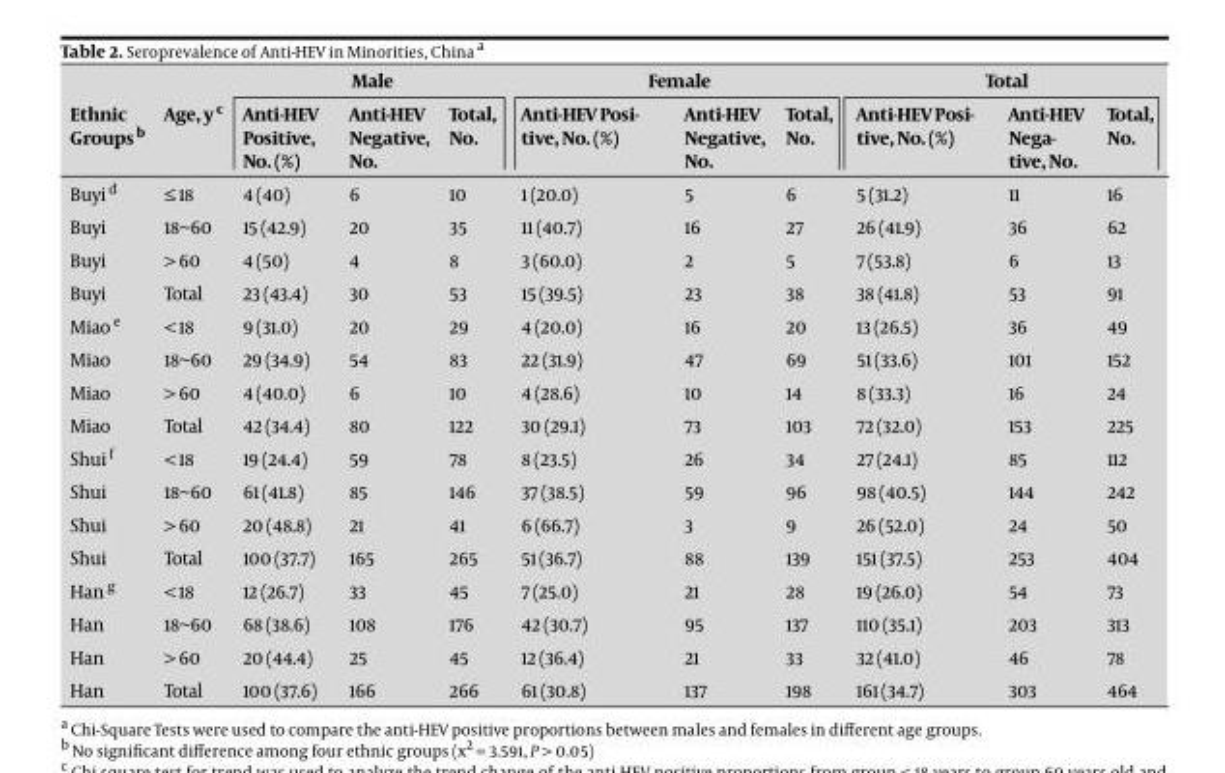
<table><thead><tr><td rowspan="2">Ethnic Groups <sup>b</sup></td><td rowspan="2">Age, y <sup>c</sup></td><td colspan="3">Male</td><td colspan="3">Female</td><td colspan="3">Total</td></tr><tr><td>Anti-HEV Positive, No. (%)</td><td>Anti-HEV Negative, No.</td><td>Total, No.</td><td>Anti-HEV Posi- tive, No. (%)</td><td>Anti-HEV Negative, No.</td><td>Total, No.</td><td>Anti-HEV Posi- tive, No. (%)</td><td>Anti-HEV Nega- tive, No.</td><td>Total, No.</td></tr></thead><tbody><tr><td>Buyi <sup>d</sup></td><td>≤ 18</td><td>4 (40)</td><td>6</td><td>10</td><td>1 (20.0)</td><td>5</td><td>6</td><td>5 (31.2)</td><td>11</td><td>16</td></tr><tr><td>Buyi</td><td>18~60</td><td>15 (42.9)</td><td>20</td><td>35</td><td>11 (40.7)</td><td>16</td><td>27</td><td>26 (41.9)</td><td>36</td><td>62</td></tr><tr><td>Buyi</td><td>&gt; 60</td><td>4 (50)</td><td>4</td><td>8</td><td>3 (60.0)</td><td>2</td><td>5</td><td>7 (53.8)</td><td>6</td><td>13</td></tr><tr><td>Buyi</td><td>Total</td><td>23 (43.4)</td><td>30</td><td>53</td><td>15 (39.5)</td><td>23</td><td>38</td><td>38 (41.8)</td><td>53</td><td>91</td></tr><tr><td>Miao <sup>e</sup></td><td>&lt; 18</td><td>9 (31.0)</td><td>20</td><td>29</td><td>4 (20.0)</td><td>16</td><td>20</td><td>13 (26.5)</td><td>36</td><td>49</td></tr><tr><td>Miao</td><td>18~60</td><td>29 (34.9)</td><td>54</td><td>83</td><td>22 (31.9)</td><td>47</td><td>69</td><td>51 (33.6)</td><td>101</td><td>152</td></tr><tr><td>Miao</td><td>&gt; 60</td><td>4 (40.0)</td><td>6</td><td>10</td><td>4 (28.6)</td><td>10</td><td>14</td><td>8 (33.3)</td><td>16</td><td>24</td></tr><tr><td>Miao</td><td>Total</td><td>42 (34.4)</td><td>80</td><td>122</td><td>30 (29.1)</td><td>73</td><td>103</td><td>72 (32.0)</td><td>153</td><td>225</td></tr><tr><td>Shui <sup>f</sup></td><td>&lt; 18</td><td>19 (24.4)</td><td>59</td><td>78</td><td>8 (23.5)</td><td>26</td><td>34</td><td>27 (24.1)</td><td>85</td><td>112</td></tr><tr><td>Shui</td><td>18~60</td><td>61 (41.8)</td><td>85</td><td>146</td><td>37 (38.5)</td><td>59</td><td>96</td><td>98 (40.5)</td><td>144</td><td>242</td></tr><tr><td>Shui</td><td>&gt; 60</td><td>20 (48.8)</td><td>21</td><td>41</td><td>6 (66.7)</td><td>3</td><td>9</td><td>26 (52.0)</td><td>24</td><td>50</td></tr><tr><td>Shui</td><td>Total</td><td>100 (37.7)</td><td>165</td><td>265</td><td>51 (36.7)</td><td>88</td><td>139</td><td>151 (37.5)</td><td>253</td><td>404</td></tr><tr><td>Han <sup>g</sup></td><td>&lt; 18</td><td>12 (26.7)</td><td>33</td><td>45</td><td>7 (25.0)</td><td>21</td><td>28</td><td>19 (26.0)</td><td>54</td><td>73</td></tr><tr><td>Han</td><td>18~60</td><td>68 (38.6)</td><td>108</td><td>176</td><td>42 (30.7)</td><td>95</td><td>137</td><td>110 (35.1)</td><td>203</td><td>313</td></tr><tr><td>Han</td><td>&gt; 60</td><td>20 (44.4)</td><td>25</td><td>45</td><td>12 (36.4)</td><td>21</td><td>33</td><td>32 (41.0)</td><td>46</td><td>78</td></tr><tr><td>Han</td><td>Total</td><td>100 (37.6)</td><td>166</td><td>266</td><td>61 (30.8)</td><td>137</td><td>198</td><td>161 (34.7)</td><td>303</td><td>464</td></tr></tbody></table>